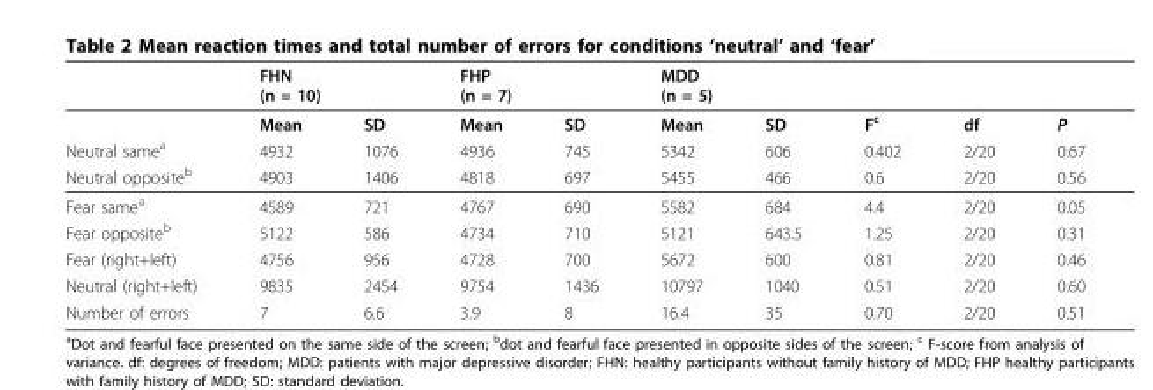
<table><thead><tr><td rowspan="2"></td><td colspan="2">FHN (n = 10)</td><td colspan="2">FHP (n = 7)</td><td colspan="2">MDD (n = 5)</td><td rowspan="2">F<sup>c</sup></td><td rowspan="2">df</td><td rowspan="2">P</td></tr><tr><td>Mean</td><td>SD</td><td>Mean</td><td>SD</td><td>Mean</td><td>SD</td></tr></thead><tbody><tr><td>Neutral same<sup>a</sup></td><td>4932</td><td>1076</td><td>4936</td><td>745</td><td>5342</td><td>606</td><td>0.402</td><td>2/20</td><td>0.67</td></tr><tr><td>Neutral opposite<sup>b</sup></td><td>4903</td><td>1406</td><td>4818</td><td>697</td><td>5455</td><td>466</td><td>0.6</td><td>2/20</td><td>0.56</td></tr><tr><td>Fear same<sup>a</sup></td><td>4589</td><td>721</td><td>4767</td><td>690</td><td>5582</td><td>684</td><td>4.4</td><td>2/20</td><td>0.05</td></tr><tr><td>Fear opposite<sup>b</sup></td><td>5122</td><td>586</td><td>4734</td><td>710</td><td>5121</td><td>643.5</td><td>1.25</td><td>2/20</td><td>0.31</td></tr><tr><td>Fear (right+left)</td><td>4756</td><td>956</td><td>4728</td><td>700</td><td>5672</td><td>600</td><td>0.81</td><td>2/20</td><td>0.46</td></tr><tr><td>Neutral (right+left)</td><td>9835</td><td>2454</td><td>9754</td><td>1436</td><td>10797</td><td>1040</td><td>0.51</td><td>2/20</td><td>0.60</td></tr><tr><td>Number of errors</td><td>7</td><td>6.6</td><td>3.9</td><td>8</td><td>16.4</td><td>35</td><td>0.70</td><td>2/20</td><td>0.51</td></tr></tbody></table>